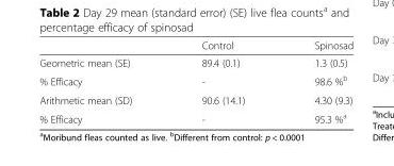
<table><thead><tr><td></td><td>Control</td><td>Spinosad</td></tr></thead><tbody><tr><td>Geometric mean (SE)</td><td>89.4 (0.1)</td><td>1.3 (0.5)</td></tr><tr><td>% Efficacy</td><td>-</td><td>98.6 %<sup>b</sup></td></tr><tr><td>Arithmetic mean (SD)</td><td>90.6 (14.1)</td><td>4.30 (9.3)</td></tr><tr><td>% Efficacy</td><td>-</td><td>95.3 %<sup>a</sup></td></tr></tbody></table>